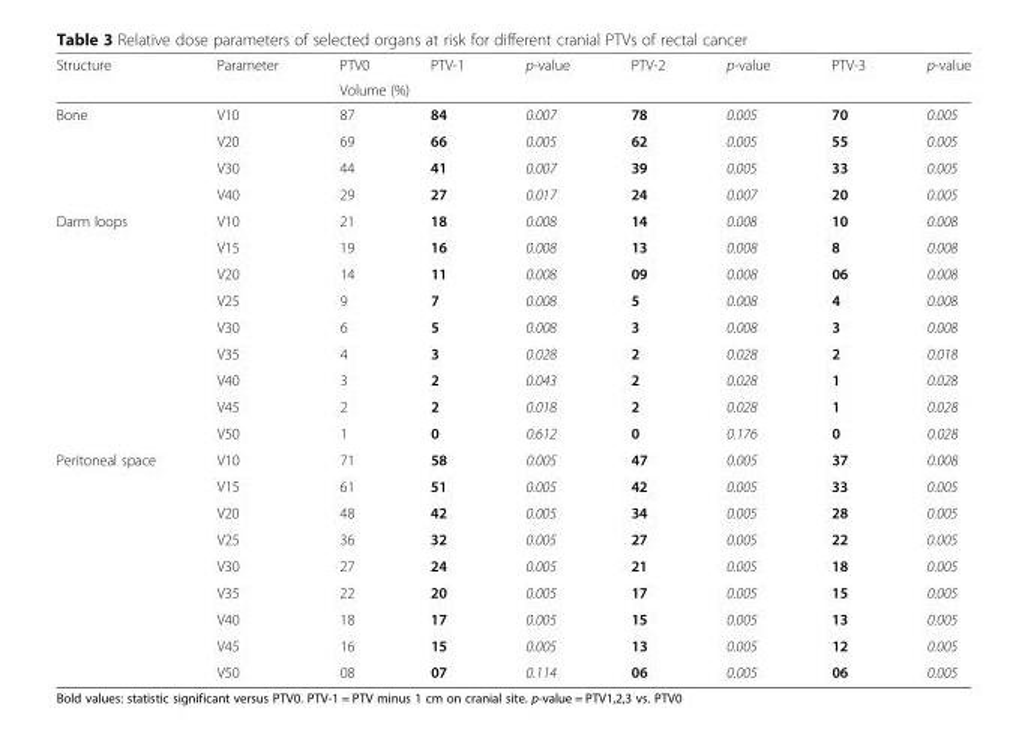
<table><thead><tr><td rowspan="2">Structure</td><td rowspan="2">Parameter</td><td>PTV0</td><td>PTV-1</td><td>p-value</td><td>PTV-2</td><td>p-value</td><td>PTV-3</td><td>p-value</td></tr><tr><td colspan="7">Volume (%)</td></tr></thead><tbody><tr><td rowspan="4">Bone</td><td>V10</td><td>87</td><td>84</td><td>0.007</td><td>78</td><td>0.005</td><td>70</td><td>0.005</td></tr><tr><td>V20</td><td>69</td><td>66</td><td>0.005</td><td>62</td><td>0.005</td><td>55</td><td>0.005</td></tr><tr><td>V30</td><td>44</td><td>41</td><td>0.007</td><td>39</td><td>0.005</td><td>33</td><td>0.005</td></tr><tr><td>V40</td><td>29</td><td>27</td><td>0.017</td><td>24</td><td>0.007</td><td>20</td><td>0.005</td></tr><tr><td rowspan="9">Darm loops</td><td>V10</td><td>21</td><td>18</td><td>0.008</td><td>14</td><td>0.008</td><td>10</td><td>0.008</td></tr><tr><td>V15</td><td>19</td><td>16</td><td>0.008</td><td>13</td><td>0.008</td><td>8</td><td>0.008</td></tr><tr><td>V20</td><td>14</td><td>11</td><td>0.008</td><td>09</td><td>0.008</td><td>06</td><td>0.008</td></tr><tr><td>V25</td><td>9</td><td>7</td><td>0.008</td><td>5</td><td>0.008</td><td>4</td><td>0.008</td></tr><tr><td>V30</td><td>6</td><td>5</td><td>0.008</td><td>3</td><td>0.008</td><td>3</td><td>0.008</td></tr><tr><td>V35</td><td>4</td><td>3</td><td>0.028</td><td>2</td><td>0.028</td><td>2</td><td>0.018</td></tr><tr><td>V40</td><td>3</td><td>2</td><td>0.043</td><td>2</td><td>0.028</td><td>1</td><td>0.028</td></tr><tr><td>V45</td><td>2</td><td>2</td><td>0.018</td><td>2</td><td>0.028</td><td>1</td><td>0.028</td></tr><tr><td>V50</td><td>1</td><td>0</td><td>0.612</td><td>0</td><td>0.176</td><td>0</td><td>0.028</td></tr><tr><td rowspan="9">Peritoneal space</td><td>V10</td><td>71</td><td>58</td><td>0.005</td><td>47</td><td>0.005</td><td>37</td><td>0.008</td></tr><tr><td>V15</td><td>61</td><td>51</td><td>0.005</td><td>42</td><td>0.005</td><td>33</td><td>0.005</td></tr><tr><td>V20</td><td>48</td><td>42</td><td>0.005</td><td>34</td><td>0.005</td><td>28</td><td>0.005</td></tr><tr><td>V25</td><td>36</td><td>32</td><td>0.005</td><td>27</td><td>0.005</td><td>22</td><td>0.005</td></tr><tr><td>V30</td><td>27</td><td>24</td><td>0.005</td><td>21</td><td>0.005</td><td>18</td><td>0.005</td></tr><tr><td>V35</td><td>22</td><td>20</td><td>0.005</td><td>17</td><td>0.005</td><td>15</td><td>0.005</td></tr><tr><td>V40</td><td>18</td><td>17</td><td>0.005</td><td>15</td><td>0.005</td><td>13</td><td>0.005</td></tr><tr><td>V45</td><td>16</td><td>15</td><td>0.005</td><td>13</td><td>0.005</td><td>12</td><td>0.005</td></tr><tr><td>V50</td><td>08</td><td>07</td><td>0.114</td><td>06</td><td>0.005</td><td>06</td><td>0.005</td></tr></tbody></table>